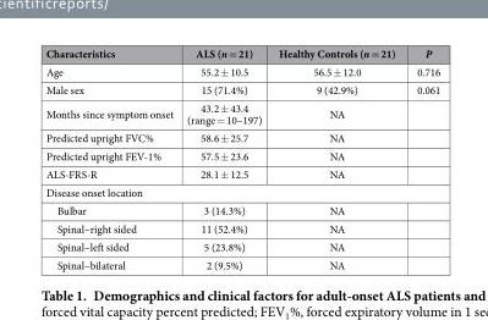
<table><thead><tr><td>Characteristics</td><td>ALS (n = 21)</td><td>Healthy Controls (n = 21)</td><td>P</td></tr></thead><tbody><tr><td>Age</td><td>55.2 ± 10.5</td><td>56.5 ± 12.0</td><td>0.716</td></tr><tr><td>Male sex</td><td>15 (71.4%)</td><td>9 (42.9%)</td><td>0.061</td></tr><tr><td>Months since symptom onset</td><td>43.2 ± 43.4 (range = 10–197)</td><td>NA</td><td></td></tr><tr><td>Predicted upright FVC%</td><td>58.6 ± 25.7</td><td>NA</td><td></td></tr><tr><td>Predicted upright FEV-1%</td><td>57.5 ± 23.6</td><td>NA</td><td></td></tr><tr><td>ALS-FRS-R</td><td>28.1 ± 12.5</td><td>NA</td><td></td></tr><tr><td colspan="4">Disease onset location</td></tr><tr><td>Bulbar</td><td>3 (14.3%)</td><td>NA</td><td></td></tr><tr><td>Spinal–right sided</td><td>11 (52.4%)</td><td>NA</td><td></td></tr><tr><td>Spinal–left sided</td><td>5 (23.8%)</td><td>NA</td><td></td></tr><tr><td>Spinal–bilateral</td><td>2 (9.5%)</td><td>NA</td><td></td></tr></tbody></table>